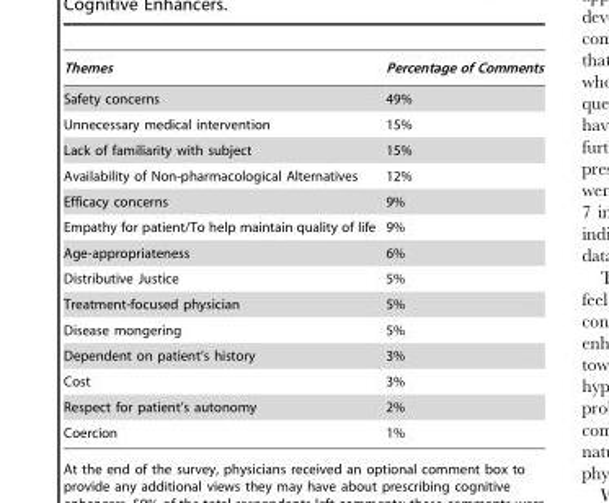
<table><thead><tr><td>Themes</td><td>Percentage of Comments</td></tr></thead><tbody><tr><td>Safety concerns</td><td>49%</td></tr><tr><td>Unnecessary medical intervention</td><td>15%</td></tr><tr><td>Lack of familiarity with subject</td><td>15%</td></tr><tr><td>Availability of Non-pharmacological Alternatives</td><td>12%</td></tr><tr><td>Efficacy concerns</td><td>9%</td></tr><tr><td>Empathy for patient/To help maintain quality of life</td><td>9%</td></tr><tr><td>Age-appropriateness</td><td>6%</td></tr><tr><td>Distributive Justice</td><td>5%</td></tr><tr><td>Treatment-focused physician</td><td>5%</td></tr><tr><td>Disease mongering</td><td>5%</td></tr><tr><td>Dependent on patient’s history</td><td>3%</td></tr><tr><td>Cost</td><td>3%</td></tr><tr><td>Respect for patient’s autonomy</td><td>2%</td></tr><tr><td>Coercion</td><td>1%</td></tr></tbody></table>